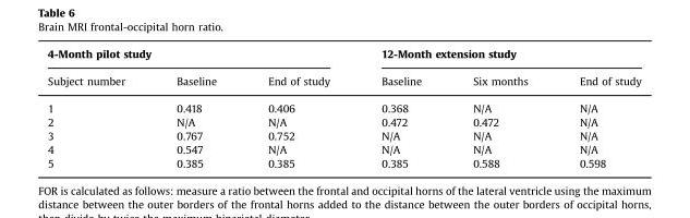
<table><thead><tr><td colspan="3">4-Month pilot study</td><td colspan="3">12-Month extension study</td></tr><tr><td>Subject number</td><td>Baseline</td><td>End of study</td><td>Baseline</td><td>Six months</td><td>End of study</td></tr></thead><tbody><tr><td>1</td><td>0.418</td><td>0.406</td><td>0.368</td><td>N/A</td><td>N/A</td></tr><tr><td>2</td><td>N/A</td><td>N/A</td><td>0.472</td><td>0.472</td><td>N/A</td></tr><tr><td>3</td><td>0.767</td><td>0.752</td><td>N/A</td><td>N/A</td><td>N/A</td></tr><tr><td>4</td><td>0.547</td><td>N/A</td><td>N/A</td><td>N/A</td><td>N/A</td></tr><tr><td>5</td><td>0.385</td><td>0.385</td><td>0.385</td><td>0.588</td><td>0.598</td></tr></tbody></table>